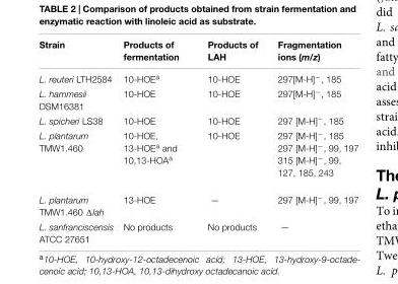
<table><thead><tr><td>Strain</td><td>Products of fermentation</td><td>Products of LAH</td><td>Fragmentation ions (m/z)</td></tr></thead><tbody><tr><td>L. reuteri LTH2584</td><td>10-HOE<sup>a</sup></td><td>10-HOE</td><td>297[M-H]<sup>−</sup>, 185</td></tr><tr><td>L. hammesii DSM16381</td><td>10-HOE</td><td>10-HOE</td><td>297[M-H]<sup>−</sup>, 185</td></tr><tr><td>L. spicheri LS38</td><td>10-HOE</td><td>10-HOE</td><td>297 [M-H]<sup>−</sup>, 185</td></tr><tr><td>L. plantarum TMW1.460</td><td>10-HOE, 13-HOE<sup>a</sup> and 10,13-HOA<sup>a</sup></td><td>10-HOE</td><td>297 [M-H]<sup>−</sup>, 185 297 [M-H]<sup>−</sup>, 99, 197 315 [M-H]<sup>−</sup>, 99, 127, 185, 243</td></tr><tr><td>L. plantarum TMW1.460 Δlah</td><td>13-HOE</td><td>—</td><td>297 [M-H]<sup>−</sup>, 99, 197</td></tr><tr><td>L. sanfranciscensis ATCC 27651</td><td>No products</td><td>No products</td><td>—</td></tr></tbody></table>